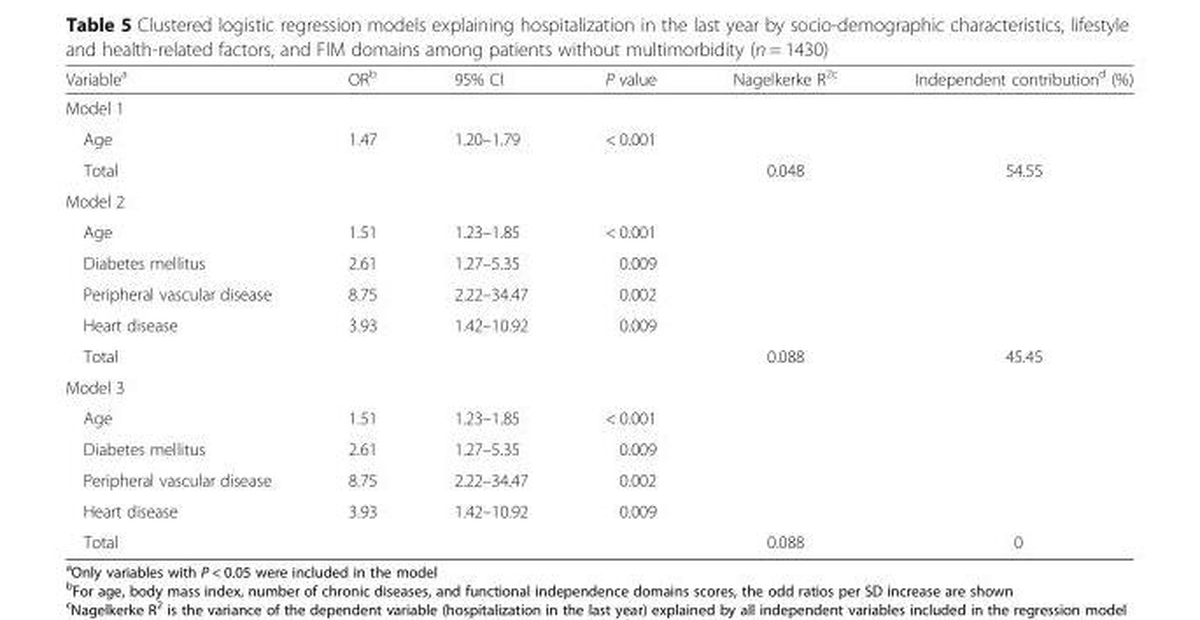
<table><thead><tr><td>Variable<sup>a</sup></td><td>OR<sup>b</sup></td><td>95% CI</td><td>P value</td><td>Nagelkerke R<sup>2c</sup></td><td>Independent contribution<sup>d</sup> (%)</td></tr></thead><tbody><tr><td colspan="6">Model 1</td></tr><tr><td>Age</td><td>1.47</td><td>1.20–1.79</td><td>&lt; 0.001</td><td></td><td></td></tr><tr><td>Total</td><td></td><td></td><td></td><td>0.048</td><td>54.55</td></tr><tr><td colspan="6">Model 2</td></tr><tr><td>Age</td><td>1.51</td><td>1.23–1.85</td><td>&lt; 0.001</td><td></td><td></td></tr><tr><td>Diabetes mellitus</td><td>2.61</td><td>1.27–5.35</td><td>0.009</td><td></td><td></td></tr><tr><td>Peripheral vascular disease</td><td>8.75</td><td>2.22–34.47</td><td>0.002</td><td></td><td></td></tr><tr><td>Heart disease</td><td>3.93</td><td>1.42–10.92</td><td>0.009</td><td></td><td></td></tr><tr><td>Total</td><td></td><td></td><td></td><td>0.088</td><td>45.45</td></tr><tr><td colspan="6">Model 3</td></tr><tr><td>Age</td><td>1.51</td><td>1.23–1.85</td><td>&lt; 0.001</td><td></td><td></td></tr><tr><td>Diabetes mellitus</td><td>2.61</td><td>1.27–5.35</td><td>0.009</td><td></td><td></td></tr><tr><td>Peripheral vascular disease</td><td>8.75</td><td>2.22–34.47</td><td>0.002</td><td></td><td></td></tr><tr><td>Heart disease</td><td>3.93</td><td>1.42–10.92</td><td>0.009</td><td></td><td></td></tr><tr><td>Total</td><td></td><td></td><td></td><td>0.088</td><td>0</td></tr></tbody></table>